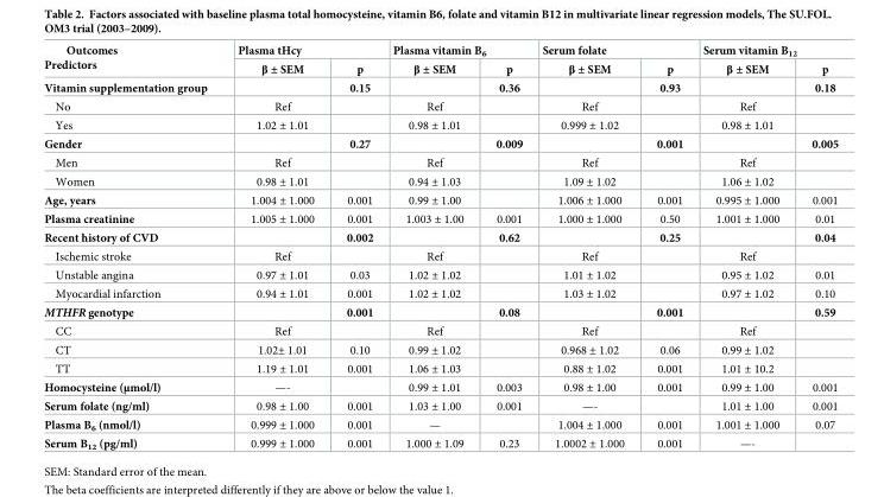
<table><thead><tr><td rowspan="2">Outcomes Predictors</td><td colspan="2">Plasma tHcy</td><td colspan="2">Plasma vitamin B<sub>6</sub></td><td colspan="2">Serum folate</td><td colspan="2">Serum vitamin B<sub>12</sub></td></tr><tr><td>β ± SEM</td><td>p</td><td>β ± SEM</td><td>p</td><td>β ± SEM</td><td>p</td><td>β ± SEM</td><td>p</td></tr></thead><tbody><tr><td>Vitamin supplementation group</td><td></td><td>0.15</td><td></td><td>0.36</td><td></td><td>0.93</td><td></td><td>0.18</td></tr><tr><td>No</td><td>Ref</td><td></td><td>Ref</td><td></td><td>Ref</td><td></td><td>Ref</td><td></td></tr><tr><td>Yes</td><td>1.02 ± 1.01</td><td></td><td>0.98 ± 1.01</td><td></td><td>0.999 ± 1.02</td><td></td><td>0.98 ± 1.01</td><td></td></tr><tr><td>Gender</td><td></td><td>0.27</td><td></td><td>0.009</td><td></td><td>0.001</td><td></td><td>0.005</td></tr><tr><td>Men</td><td>Ref</td><td></td><td>Ref</td><td></td><td>Ref</td><td></td><td>Ref</td><td></td></tr><tr><td>Women</td><td>0.98 ± 1.01</td><td></td><td>0.94 ± 1.03</td><td></td><td>1.09 ± 1.02</td><td></td><td>1.06 ± 1.02</td><td></td></tr><tr><td>Age, years</td><td>1.004 ± 1.000</td><td>0.001</td><td>0.99 ± 1.00</td><td></td><td>1.006 ± 1.000</td><td>0.001</td><td>0.995 ± 1.000</td><td>0.001</td></tr><tr><td>Plasma creatinine</td><td>1.005 ± 1.000</td><td>0.001</td><td>1.003 ± 1.00</td><td>0.001</td><td>1.000 ± 1.000</td><td>0.50</td><td>1.001 ± 1.000</td><td>0.01</td></tr><tr><td>Recent history of CVD</td><td></td><td>0.002</td><td></td><td>0.62</td><td></td><td>0.25</td><td></td><td>0.04</td></tr><tr><td>Ischemic stroke</td><td>Ref</td><td></td><td>Ref</td><td></td><td>Ref</td><td></td><td>Ref</td><td></td></tr><tr><td>Unstable angina</td><td>0.97 ± 1.01</td><td>0.03</td><td>1.02 ± 1.02</td><td></td><td>1.01 ± 1.02</td><td></td><td>0.95 ± 1.02</td><td>0.01</td></tr><tr><td>Myocardial infarction</td><td>0.94 ± 1.01</td><td>0.001</td><td>1.02 ± 1.02</td><td></td><td>1.03 ± 1.02</td><td></td><td>0.97 ± 1.02</td><td>0.10</td></tr><tr><td>MTHFR genotype</td><td></td><td>0.001</td><td></td><td>0.08</td><td></td><td>0.001</td><td></td><td>0.59</td></tr><tr><td>CC</td><td>Ref</td><td></td><td>Ref</td><td></td><td>Ref</td><td></td><td>Ref</td><td></td></tr><tr><td>CT</td><td>1.02± 1.01</td><td>0.10</td><td>0.99 ± 1.02</td><td></td><td>0.968 ± 1.02</td><td>0.06</td><td>0.99 ± 1.02</td><td></td></tr><tr><td>TT</td><td>1.19 ± 1.01</td><td>0.001</td><td>1.06 ± 1.03</td><td></td><td>0.88 ± 1.02</td><td>0.001</td><td>1.01 ± 10.2</td><td></td></tr><tr><td>Homocysteine (μmol/l)</td><td>—-</td><td></td><td>0.99 ± 1.01</td><td>0.003</td><td>0.98 ± 1.00</td><td>0.001</td><td>0.99 ± 1.00</td><td>0.001</td></tr><tr><td>Serum folate (ng/ml)</td><td>0.98 ± 1.00</td><td>0.001</td><td>1.03 ± 1.00</td><td>0.001</td><td>—-</td><td></td><td>1.01 ± 1.00</td><td>0.001</td></tr><tr><td>Plasma B<sub>6</sub> (nmol/l)</td><td>0.999 ± 1.000</td><td>0.001</td><td>—</td><td></td><td>1.004 ± 1.000</td><td>0.001</td><td>1.001 ± 1.000</td><td>0.07</td></tr><tr><td>Serum B<sub>12</sub> (pg/ml)</td><td>0.999 ± 1.000</td><td>0.001</td><td>1.000 ± 1.09</td><td>0.23</td><td>1.0002 ± 1.000</td><td>0.001</td><td>—-</td><td></td></tr></tbody></table>